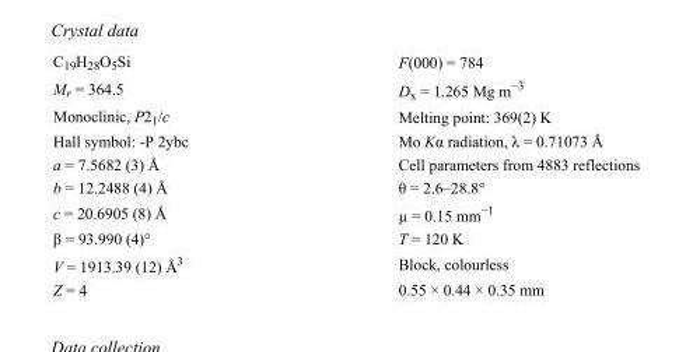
<table><tbody><tr><td>C<sub>19</sub>H<sub>28</sub>O<sub>5</sub>Si</td><td>F(000) = 784</td></tr><tr><td>M<sub>r</sub> = 364.5</td><td>D<sub>x</sub> = 1.265 Mg m<sup>−3</sup></td></tr><tr><td>Monoclinic, P2<sub>1</sub>/c</td><td>Melting point: 369(2) K</td></tr><tr><td>Hall symbol: -P 2ybc</td><td>Mo Kα radiation, λ = 0.71073 Å</td></tr><tr><td>a = 7.5682 (3) Å</td><td>Cell parameters from 4883 reflections</td></tr><tr><td>b = 12.2488 (4) Å</td><td>θ = 2.6–28.8°</td></tr><tr><td>c = 20.6905 (8) Å</td><td>µ = 0.15 mm<sup>−1</sup></td></tr><tr><td>β = 93.990 (4)°</td><td>T = 120 K</td></tr><tr><td>V = 1913.39 (12) Å<sup>3</sup></td><td>Block, colourless</td></tr><tr><td>Z = 4</td><td>0.55 × 0.44 × 0.35 mm</td></tr></tbody></table>